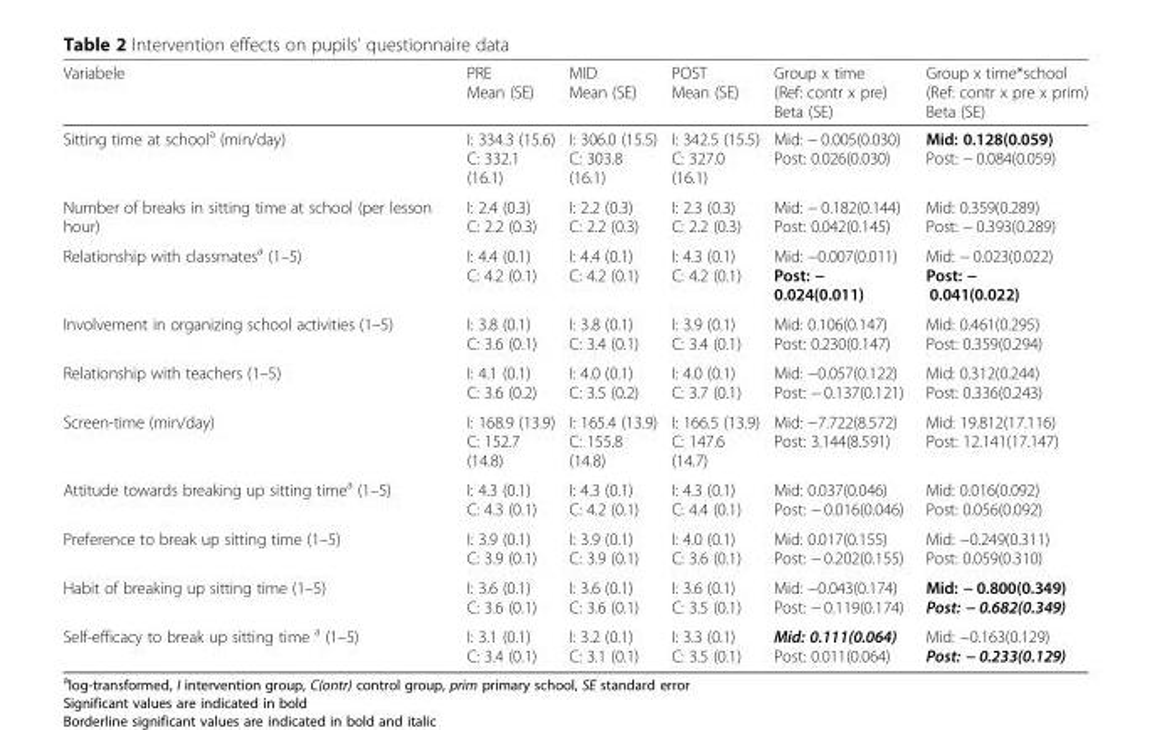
<table><thead><tr><td>Variabele</td><td>PRE Mean (SE)</td><td>MID Mean (SE)</td><td>POST Mean (SE)</td><td>Group x time (Ref: contr x pre) Beta (SE)</td><td>Group x time*school (Ref: contr x pre x prim) Beta (SE)</td></tr></thead><tbody><tr><td>Sitting time at school<sup>a</sup> (min/day)</td><td>I: 334.3 (15.6) C: 332.1 (16.1)</td><td>I: 306.0 (15.5) C: 303.8 (16.1)</td><td>I: 342.5 (15.5) C: 327.0 (16.1)</td><td>Mid: − 0.005(0.030) Post: 0.026(0.030)</td><td>Mid: 0.128(0.059) Post: − 0.084(0.059)</td></tr><tr><td>Number of breaks in sitting time at school (per lesson hour)</td><td>I: 2.4 (0.3) C: 2.2 (0.3)</td><td>I: 2.2 (0.3) C: 2.2 (0.3)</td><td>I: 2.3 (0.3) C: 2.2 (0.3)</td><td>Mid: − 0.182(0.144) Post: 0.042(0.145)</td><td>Mid: 0.359(0.289) Post: − 0.393(0.289)</td></tr><tr><td>Relationship with classmates<sup>a</sup> (1–5)</td><td>I: 4.4 (0.1) C: 4.2 (0.1)</td><td>I: 4.4 (0.1) C: 4.2 (0.1)</td><td>I: 4.3 (0.1) C: 4.2 (0.1)</td><td>Mid: −0.007(0.011) Post: − 0.024(0.011)</td><td>Mid: − 0.023(0.022) Post: − 0.041(0.022)</td></tr><tr><td>Involvement in organizing school activities (1–5)</td><td>I: 3.8 (0.1) C: 3.6 (0.1)</td><td>I: 3.8 (0.1) C: 3.4 (0.1)</td><td>I: 3.9 (0.1) C: 3.4 (0.1)</td><td>Mid: 0.106(0.147) Post: 0.230(0.147)</td><td>Mid: 0.461(0.295) Post: 0.359(0.294)</td></tr><tr><td>Relationship with teachers (1–5)</td><td>I: 4.1 (0.1) C: 3.6 (0.2)</td><td>I: 4.0 (0.1) C: 3.5 (0.2)</td><td>I: 4.0 (0.1) C: 3.7 (0.1)</td><td>Mid: −0.057(0.122) Post: − 0.137(0.121)</td><td>Mid: 0.312(0.244) Post: 0.336(0.243)</td></tr><tr><td>Screen-time (min/day)</td><td>I: 168.9 (13.9) C: 152.7 (14.8)</td><td>I: 165.4 (13.9) C: 155.8 (14.8)</td><td>I: 166.5 (13.9) C: 147.6 (14.7)</td><td>Mid: −7.722(8.572) Post: 3.144(8.591)</td><td>Mid: 19.812(17.116) Post: 12.141(17.147)</td></tr><tr><td>Attitude towards breaking up sitting time<sup>a</sup> (1–5)</td><td>I: 4.3 (0.1) C: 4.3 (0.1)</td><td>I: 4.3 (0.1) C: 4.2 (0.1)</td><td>I: 4.3 (0.1) C: 4.4 (0.1)</td><td>Mid: 0.037(0.046) Post: − 0.016(0.046)</td><td>Mid: 0.016(0.092) Post: 0.056(0.092)</td></tr><tr><td>Preference to break up sitting time (1–5)</td><td>I: 3.9 (0.1) C: 3.9 (0.1)</td><td>I: 3.9 (0.1) C: 3.9 (0.1)</td><td>I: 4.0 (0.1) C: 3.6 (0.1)</td><td>Mid: 0.017(0.155) Post: − 0.202(0.155)</td><td>Mid: −0.249(0.311) Post: 0.059(0.310)</td></tr><tr><td>Habit of breaking up sitting time (1–5)</td><td>I: 3.6 (0.1) C: 3.6 (0.1)</td><td>I: 3.6 (0.1) C: 3.6 (0.1)</td><td>I: 3.6 (0.1) C: 3.5 (0.1)</td><td>Mid: −0.043(0.174) Post: − 0.119(0.174)</td><td>Mid: − 0.800(0.349) Post: − 0.682(0.349)</td></tr><tr><td>Self-efficacy to break up sitting time <sup>a</sup> (1–5)</td><td>I: 3.1 (0.1) C: 3.4 (0.1)</td><td>I: 3.2 (0.1) C: 3.1 (0.1)</td><td>I: 3.3 (0.1) C: 3.5 (0.1)</td><td>Mid: 0.111(0.064) Post: 0.011(0.064)</td><td>Mid: −0.163(0.129) Post: − 0.233(0.129)</td></tr></tbody></table>